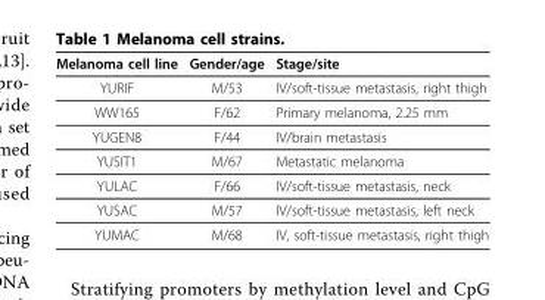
<table><thead><tr><td>Melanoma cell line</td><td>Gender/age</td><td>Stage/site</td></tr></thead><tbody><tr><td>YURIF</td><td>M/53</td><td>IV/soft-tissue metastasis, right thigh</td></tr><tr><td>WW165</td><td>F/62</td><td>Primary melanoma, 2.25 mm</td></tr><tr><td>YUGEN8</td><td>F/44</td><td>IV/brain metastasis</td></tr><tr><td>YUSIT1</td><td>M/67</td><td>Metastatic melanoma</td></tr><tr><td>YULAC</td><td>F/66</td><td>IV/soft-tissue metastasis, neck</td></tr><tr><td>YUSAC</td><td>M/57</td><td>IV/soft-tissue metastasis, left neck</td></tr><tr><td>YUMAC</td><td>M/68</td><td>IV, soft-tissue metastasis, right thigh</td></tr></tbody></table>